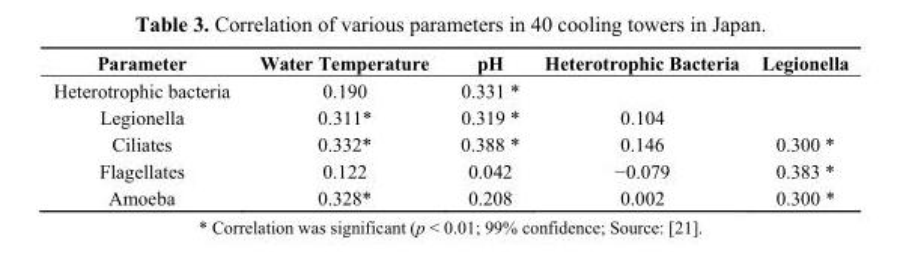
<table><thead><tr><td>Parameter</td><td>Water Temperature</td><td>pH</td><td>Heterotrophic Bacteria</td><td>Legionella</td></tr></thead><tbody><tr><td>Heterotrophic bacteria</td><td>0.190</td><td>0.331 *</td><td></td><td></td></tr><tr><td>Legionella</td><td>0.311*</td><td>0.319 *</td><td>0.104</td><td></td></tr><tr><td>Ciliates</td><td>0.332*</td><td>0.388 *</td><td>0.146</td><td>0.300 *</td></tr><tr><td>Flagellates</td><td>0.122</td><td>0.042</td><td>−0.079</td><td>0.383 *</td></tr><tr><td>Amoeba</td><td>0.328*</td><td>0.208</td><td>0.002</td><td>0.300 *</td></tr></tbody></table>